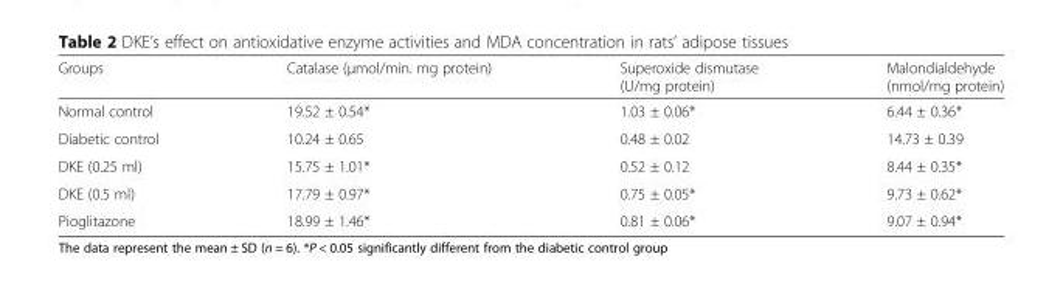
<table><thead><tr><td>Groups</td><td>Catalase (μmol/min. mg protein)</td><td>Superoxide dismutase (U/mg protein)</td><td>Malondialdehyde (nmol/mg protein)</td></tr></thead><tbody><tr><td>Normal control</td><td>19.52 ± 0.54*</td><td>1.03 ± 0.06*</td><td>6.44 ± 0.36*</td></tr><tr><td>Diabetic control</td><td>10.24 ± 0.65</td><td>0.48 ± 0.02</td><td>14.73 ± 0.39</td></tr><tr><td>DKE (0.25 ml)</td><td>15.75 ± 1.01*</td><td>0.52 ± 0.12</td><td>8.44 ± 0.35*</td></tr><tr><td>DKE (0.5 ml)</td><td>17.79 ± 0.97*</td><td>0.75 ± 0.05*</td><td>9.73 ± 0.62*</td></tr><tr><td>Pioglitazone</td><td>18.99 ± 1.46*</td><td>0.81 ± 0.06*</td><td>9.07 ± 0.94*</td></tr></tbody></table>